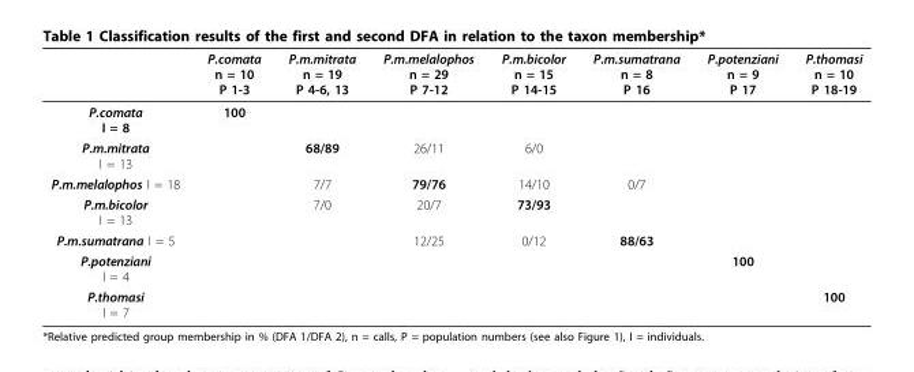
<table><thead><tr><td></td><td>P.comata n = 10 P 1-3</td><td>P.m.mitrata n = 19 P 4-6, 13</td><td>P.m.melalophos n = 29 P 7-12</td><td>P.m.bicolor n = 15 P 14-15</td><td>P.m.sumatrana n = 8 P 16</td><td>P.potenziani n = 9 P 17</td><td>P.thomasi n = 10 P 18-19</td></tr></thead><tbody><tr><td>P.comata I = 8</td><td>100</td><td></td><td></td><td></td><td></td><td></td><td></td></tr><tr><td>P.m.mitrata I = 13</td><td></td><td>68/89</td><td>26/11</td><td>6/0</td><td></td><td></td><td></td></tr><tr><td>P.m.melalophos I = 18</td><td></td><td>7/7</td><td>79/76</td><td>14/10</td><td>0/7</td><td></td><td></td></tr><tr><td>P.m.bicolor I = 13</td><td></td><td>7/0</td><td>20/7</td><td>73/93</td><td></td><td></td><td></td></tr><tr><td>P.m.sumatrana I = 5</td><td></td><td></td><td>12/25</td><td>0/12</td><td>88/63</td><td></td><td></td></tr><tr><td>P.potenziani I = 4</td><td></td><td></td><td></td><td></td><td></td><td>100</td><td></td></tr><tr><td>P.thomasi I = 7</td><td></td><td></td><td></td><td></td><td></td><td></td><td>100</td></tr></tbody></table>